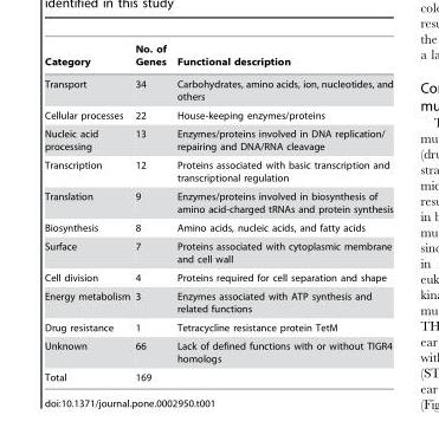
<table><thead><tr><td>Category</td><td>No. of Genes</td><td>Functional description</td></tr></thead><tbody><tr><td>Transport</td><td>34</td><td>Carbohydrates, amino acids, ion, nucleotides, and others</td></tr><tr><td>Cellular processes</td><td>22</td><td>House-keeping enzymes/proteins</td></tr><tr><td>Nucleic acid processing</td><td>13</td><td>Enzymes/proteins involved in DNA replication/ repairing and DNA/RNA cleavage</td></tr><tr><td>Transcription</td><td>12</td><td>Proteins associated with basic transcription and transcriptional regulation</td></tr><tr><td>Translation</td><td>9</td><td>Enzymes/proteins involved in biosynthesis of amino acid-charged tRNAs and protein synthesis</td></tr><tr><td>Biosynthesis</td><td>8</td><td>Amino acids, nucleic acids, and fatty acids</td></tr><tr><td>Surface</td><td>7</td><td>Proteins associated with cytoplasmic membrane and cell wall</td></tr><tr><td>Cell division</td><td>4</td><td>Proteins required for cell separation and shape</td></tr><tr><td>Energy metabolism</td><td>3</td><td>Enzymes associated with ATP synthesis and related functions</td></tr><tr><td>Drug resistance</td><td>1</td><td>Tetracycline resistance protein TetM</td></tr><tr><td>Unknown</td><td>66</td><td>Lack of defined functions with or without TIGR4 homologs</td></tr><tr><td>Total</td><td>169</td><td></td></tr></tbody></table>